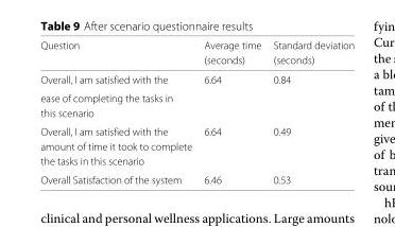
<table><thead><tr><td rowspan="2">Question</td><td rowspan="2">Average time (seconds)</td><td rowspan="2">Standard deviation (seconds)</td></tr><tr></tr></thead><tbody><tr><td>Overall, I am satisfied with the</td><td>6.64</td><td>0.84</td></tr><tr><td colspan="3">ease of completing the tasks in</td></tr><tr><td colspan="3">this scenario</td></tr><tr><td>Overall, I am satisfied with the</td><td>6.64</td><td>0.49</td></tr><tr><td colspan="3">amount of time it took to complete</td></tr><tr><td colspan="3">the tasks in this scenario</td></tr><tr><td>Overall Satisfaction of the system</td><td>6.46</td><td>0.53</td></tr></tbody></table>